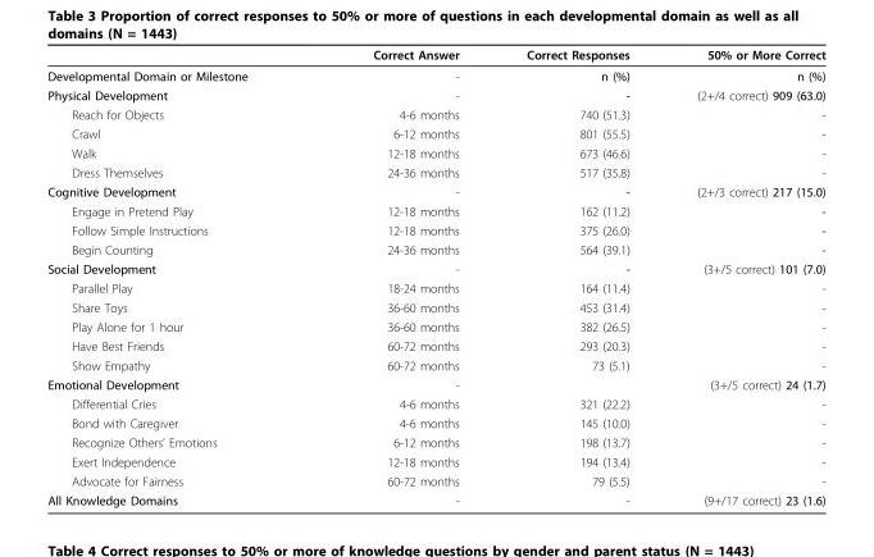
<table><thead><tr><td></td><td>Correct Answer</td><td>Correct Responses</td><td>50% or More Correct</td></tr></thead><tbody><tr><td>Developmental Domain or Milestone</td><td>-</td><td>n (%)</td><td>n (%)</td></tr><tr><td>Physical Development</td><td>-</td><td>-</td><td>(2+/4 correct) 909 (63.0)</td></tr><tr><td>Reach for Objects</td><td>4-6 months</td><td>740 (51.3)</td><td>-</td></tr><tr><td>Crawl</td><td>6-12 months</td><td>801 (55.5)</td><td>-</td></tr><tr><td>Walk</td><td>12-18 months</td><td>673 (46.6)</td><td>-</td></tr><tr><td>Dress Themselves</td><td>24-36 months</td><td>517 (35.8)</td><td>-</td></tr><tr><td>Cognitive Development</td><td>-</td><td>-</td><td>(2+/3 correct) 217 (15.0)</td></tr><tr><td>Engage in Pretend Play</td><td>12-18 months</td><td>162 (11.2)</td><td>-</td></tr><tr><td>Follow Simple Instructions</td><td>12-18 months</td><td>375 (26.0)</td><td>-</td></tr><tr><td>Begin Counting</td><td>24-36 months</td><td>564 (39.1)</td><td>-</td></tr><tr><td>Social Development</td><td>-</td><td>-</td><td>(3+/5 correct) 101 (7.0)</td></tr><tr><td>Parallel Play</td><td>18-24 months</td><td>164 (11.4)</td><td>-</td></tr><tr><td>Share Toys</td><td>36-60 months</td><td>453 (31.4)</td><td>-</td></tr><tr><td>Play Alone for 1 hour</td><td>36-60 months</td><td>382 (26.5)</td><td>-</td></tr><tr><td>Have Best Friends</td><td>60-72 months</td><td>293 (20.3)</td><td>-</td></tr><tr><td>Show Empathy</td><td>60-72 months</td><td>73 (5.1)</td><td>-</td></tr><tr><td>Emotional Development</td><td>-</td><td></td><td>(3+/5 correct) 24 (1.7)</td></tr><tr><td>Differential Cries</td><td>4-6 months</td><td>321 (22.2)</td><td>-</td></tr><tr><td>Bond with Caregiver</td><td>4-6 months</td><td>145 (10.0)</td><td>-</td></tr><tr><td>Recognize Others’ Emotions</td><td>6-12 months</td><td>198 (13.7)</td><td>-</td></tr><tr><td>Exert Independence</td><td>12-18 months</td><td>194 (13.4)</td><td>-</td></tr><tr><td>Advocate for Fairness</td><td>60-72 months</td><td>79 (5.5)</td><td>-</td></tr><tr><td>All Knowledge Domains</td><td>-</td><td>-</td><td>(9+/17 correct) 23 (1.6)</td></tr></tbody></table>